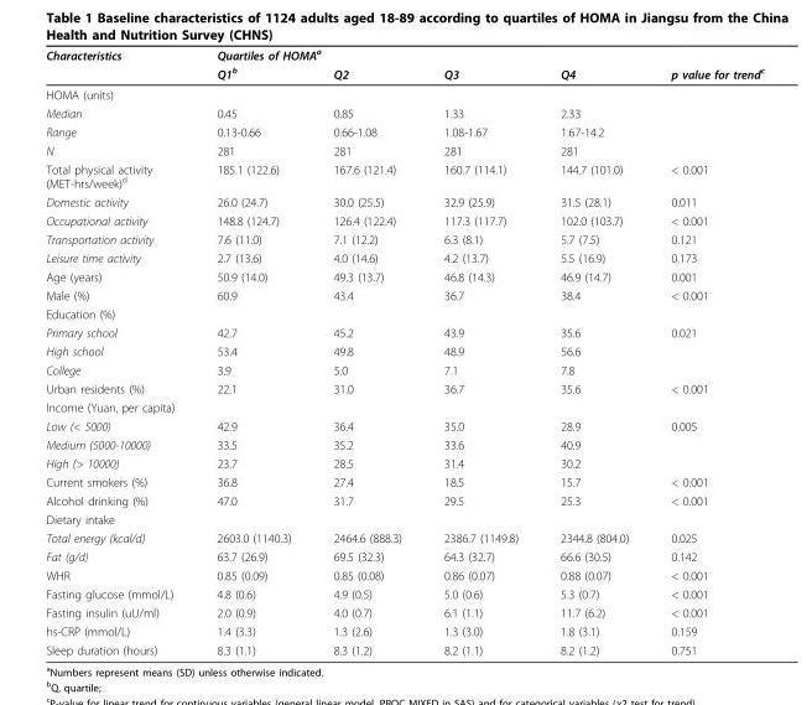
<table><thead><tr><td rowspan="2">Characteristics</td><td colspan="5">Quartiles of HOMA<sup>a</sup></td></tr><tr><td>Q1<sup>b</sup></td><td>Q2</td><td>Q3</td><td>Q4</td><td>p value for trend<sup>c</sup></td></tr></thead><tbody><tr><td colspan="6">HOMA (units)</td></tr><tr><td>Median</td><td>0.45</td><td>0.85</td><td>1.33</td><td>2.33</td><td></td></tr><tr><td>Range</td><td>0.13-0.66</td><td>0.66-1.08</td><td>1.08-1.67</td><td>1.67-14.2</td><td></td></tr><tr><td>N</td><td>281</td><td>281</td><td>281</td><td>281</td><td></td></tr><tr><td>Total physical activity (MET-hrs/week)<sup>d</sup></td><td>185.1 (122.6)</td><td>167.6 (121.4)</td><td>160.7 (114.1)</td><td>144.7 (101.0)</td><td>&lt; 0.001</td></tr><tr><td>Domestic activity</td><td>26.0 (24.7)</td><td>30.0 (25.5)</td><td>32.9 (25.9)</td><td>31.5 (28.1)</td><td>0.011</td></tr><tr><td>Occupational activity</td><td>148.8 (124.7)</td><td>126.4 (122.4)</td><td>117.3 (117.7)</td><td>102.0 (103.7)</td><td>&lt; 0.001</td></tr><tr><td>Transportation activity</td><td>7.6 (11.0)</td><td>7.1 (12.2)</td><td>6.3 (8.1)</td><td>5.7 (7.5)</td><td>0.121</td></tr><tr><td>Leisure time activity</td><td>2.7 (13.6)</td><td>4.0 (14.6)</td><td>4.2 (13.7)</td><td>5.5 (16.9)</td><td>0.173</td></tr><tr><td>Age (years)</td><td>50.9 (14.0)</td><td>49.3 (13.7)</td><td>46.8 (14.3)</td><td>46.9 (14.7)</td><td>0.001</td></tr><tr><td>Male (%)</td><td>60.9</td><td>43.4</td><td>36.7</td><td>38.4</td><td>&lt; 0.001</td></tr><tr><td colspan="6">Education (%)</td></tr><tr><td>Primary school</td><td>42.7</td><td>45.2</td><td>43.9</td><td>35.6</td><td>0.021</td></tr><tr><td>High school</td><td>53.4</td><td>49.8</td><td>48.9</td><td>56.6</td><td></td></tr><tr><td>College</td><td>3.9</td><td>5.0</td><td>7.1</td><td>7.8</td><td></td></tr><tr><td>Urban residents (%)</td><td>22.1</td><td>31.0</td><td>36.7</td><td>35.6</td><td>&lt; 0.001</td></tr><tr><td colspan="6">Income (Yuan, per capita)</td></tr><tr><td>Low (&lt; 5000)</td><td>42.9</td><td>36.4</td><td>35.0</td><td>28.9</td><td>0.005</td></tr><tr><td>Medium (5000-10000)</td><td>33.5</td><td>35.2</td><td>33.6</td><td>40.9</td><td></td></tr><tr><td>High (&gt; 10000)</td><td>23.7</td><td>28.5</td><td>31.4</td><td>30.2</td><td></td></tr><tr><td>Current smokers (%)</td><td>36.8</td><td>27.4</td><td>18.5</td><td>15.7</td><td>&lt; 0.001</td></tr><tr><td>Alcohol drinking (%)</td><td>47.0</td><td>31.7</td><td>29.5</td><td>25.3</td><td>&lt; 0.001</td></tr><tr><td colspan="6">Dietary intake</td></tr><tr><td>Total energy (kcal/d)</td><td>2603.0 (1140.3)</td><td>2464.6 (888.3)</td><td>2386.7 (1149.8)</td><td>2344.8 (804.0)</td><td>0.025</td></tr><tr><td>Fat (g/d)</td><td>63.7 (26.9)</td><td>69.5 (32.3)</td><td>64.3 (32.7)</td><td>66.6 (30.5)</td><td>0.142</td></tr><tr><td>WHR</td><td>0.85 (0.09)</td><td>0.85 (0.08)</td><td>0.86 (0.07)</td><td>0.88 (0.07)</td><td>&lt; 0.001</td></tr><tr><td>Fasting glucose (mmol/L)</td><td>4.8 (0.6)</td><td>4.9 (0.5)</td><td>5.0 (0.6)</td><td>5.3 (0.7)</td><td>&lt; 0.001</td></tr><tr><td>Fasting insulin (uU/ml)</td><td>2.0 (0.9)</td><td>4.0 (0.7)</td><td>6.1 (1.1)</td><td>11.7 (6.2)</td><td>&lt; 0.001</td></tr><tr><td>hs-CRP (mmol/L)</td><td>1.4 (3.3)</td><td>1.3 (2.6)</td><td>1.3 (3.0)</td><td>1.8 (3.1)</td><td>0.159</td></tr><tr><td>Sleep duration (hours)</td><td>8.3 (1.1)</td><td>8.3 (1.2)</td><td>8.2 (1.1)</td><td>8.2 (1.2)</td><td>0.751</td></tr></tbody></table>